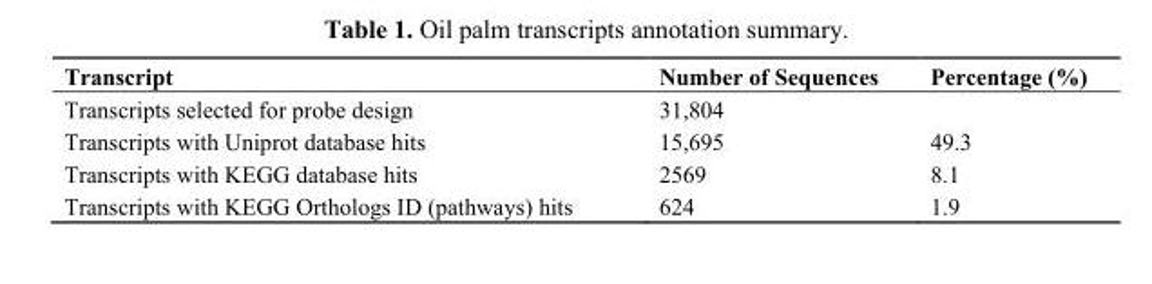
<table><thead><tr><td>Transcript</td><td>Number of Sequences</td><td>Percentage (%)</td></tr></thead><tbody><tr><td>Transcripts selected for probe design</td><td>31,804</td><td></td></tr><tr><td>Transcripts with Uniprot database hits</td><td>15,695</td><td>49.3</td></tr><tr><td>Transcripts with KEGG database hits</td><td>2569</td><td>8.1</td></tr><tr><td>Transcripts with KEGG Orthologs ID (pathways) hits</td><td>624</td><td>1.9</td></tr></tbody></table>